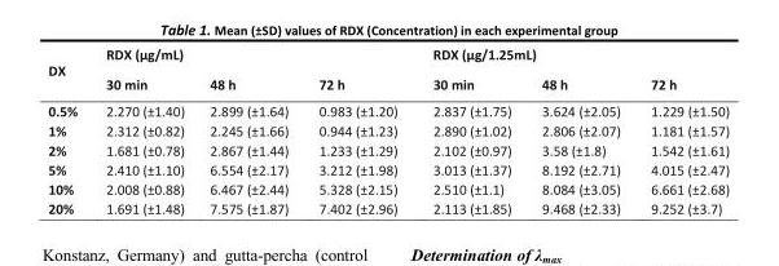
<table><thead><tr><td rowspan="2">DX</td><td colspan="3">RDX (μg/mL)</td><td colspan="3">RDX (μg/1.25mL)</td></tr><tr><td>30 min</td><td>48 h</td><td>72 h</td><td>30 min</td><td>48 h</td><td>72 h</td></tr></thead><tbody><tr><td>0.5%</td><td>2.270 (±1.40)</td><td>2.899 (±1.64)</td><td>0.983 (±1.20)</td><td>2.837 (±1.75)</td><td>3.624 (±2.05)</td><td>1.229 (±1.50)</td></tr><tr><td>1%</td><td>2.312 (±0.82)</td><td>2.245 (±1.66)</td><td>0.944 (±1.23)</td><td>2.890 (±1.02)</td><td>2.806 (±2.07)</td><td>1.181 (±1.57)</td></tr><tr><td>2%</td><td>1.681 (±0.78)</td><td>2.867 (±1.44)</td><td>1.233 (±1.29)</td><td>2.102 (±0.97)</td><td>3.58 (±1.8)</td><td>1.542 (±1.61)</td></tr><tr><td>5%</td><td>2.410 (±1.10)</td><td>6.554 (±2.17)</td><td>3.212 (±1.98)</td><td>3.013 (±1.37)</td><td>8.192 (±2.71)</td><td>4.015 (±2.47)</td></tr><tr><td>10%</td><td>2.008 (±0.88)</td><td>6.467 (±2.44)</td><td>5.328 (±2.15)</td><td>2.510 (±1.1)</td><td>8.084 (±3.05)</td><td>6.661 (±2.68)</td></tr><tr><td>20%</td><td>1.691 (±1.48)</td><td>7.575 (±1.87)</td><td>7.402 (±2.96)</td><td>2.113 (±1.85)</td><td>9.468 (±2.33)</td><td>9.252 (±3.7)</td></tr></tbody></table>